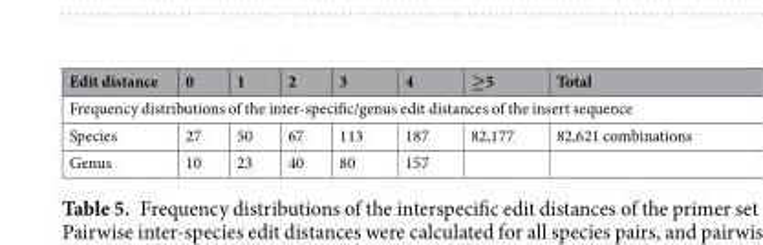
<table><thead><tr><td>Edit distance</td><td>0</td><td>1</td><td>2</td><td>3</td><td>4</td><td>≥5</td><td>Total</td></tr></thead><tbody><tr><td colspan="8">Frequency distributions of the inter-specific/genus edit distances of the insert sequence</td></tr><tr><td>Species</td><td>27</td><td>50</td><td>67</td><td>113</td><td>187</td><td>82,177</td><td>82,621 combinations</td></tr><tr><td>Genus</td><td>10</td><td>23</td><td>40</td><td>80</td><td>157</td><td></td><td></td></tr></tbody></table>